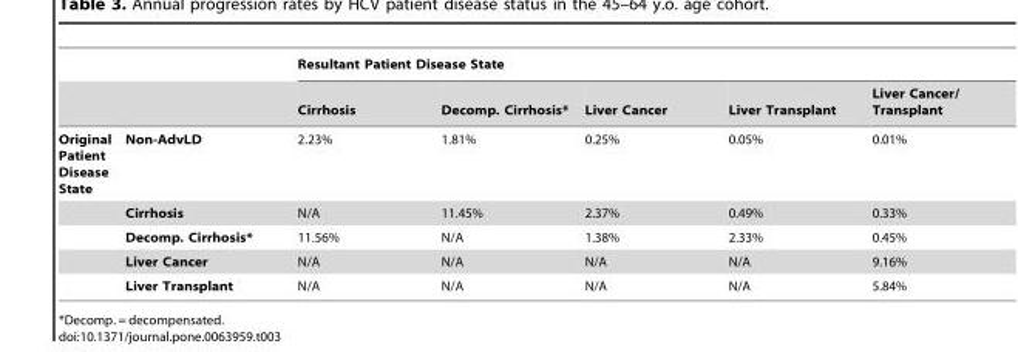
<table><thead><tr><td rowspan="2"></td><td rowspan="2"></td><td colspan="5">Resultant Patient Disease State</td></tr><tr><td>Cirrhosis</td><td>Decomp. Cirrhosis*</td><td>Liver Cancer</td><td>Liver Transplant</td><td>Liver Cancer/ Transplant</td></tr></thead><tbody><tr><td rowspan="5">Original Patient Disease State</td><td>Non-AdvLD</td><td>2.23%</td><td>1.81%</td><td>0.25%</td><td>0.05%</td><td>0.01%</td></tr><tr><td>Cirrhosis</td><td>N/A</td><td>11.45%</td><td>2.37%</td><td>0.49%</td><td>0.33%</td></tr><tr><td>Decomp. Cirrhosis*</td><td>11.56%</td><td>N/A</td><td>1.38%</td><td>2.33%</td><td>0.45%</td></tr><tr><td>Liver Cancer</td><td>N/A</td><td>N/A</td><td>N/A</td><td>N/A</td><td>9.16%</td></tr><tr><td>Liver Transplant</td><td>N/A</td><td>N/A</td><td>N/A</td><td>N/A</td><td>5.84%</td></tr></tbody></table>